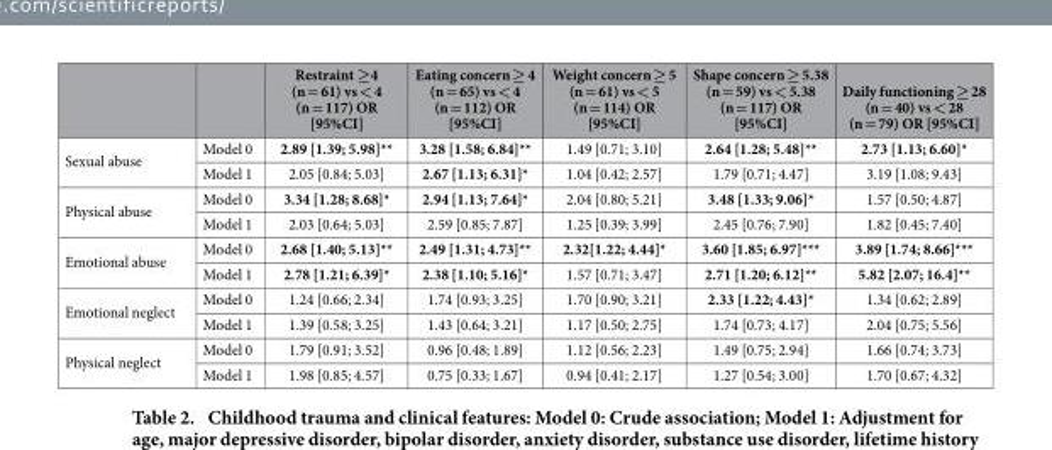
<table><thead><tr><td></td><td></td><td>Restraint ≥4 (n = 61) vs &lt; 4 (n = 117) OR [95%CI]</td><td>Eating concern ≥ 4 (n = 65) vs &lt; 4 (n = 112) OR [95%CI]</td><td>Weight concern ≥ 5 (n = 61) vs &lt; 5 (n = 114) OR [95%CI]</td><td>Shape concern ≥ 5.38 (n = 59) vs &lt; 5.38 (n = 117) OR [95%CI]</td><td>Daily functioning ≥ 28 (n = 40) vs &lt; 28 (n = 79) OR [95%CI]</td></tr></thead><tbody><tr><td rowspan="2">Sexual abuse</td><td>Model 0</td><td>2.89 [1.39; 5.98]**</td><td>3.28 [1.58; 6.84]**</td><td>1.49 [0.71; 3.10]</td><td>2.64 [1.28; 5.48]**</td><td>2.73 [1.13; 6.60]*</td></tr><tr><td>Model 1</td><td>2.05 [0.84; 5.03]</td><td>2.67 [1.13; 6.31]*</td><td>1.04 [0.42; 2.57]</td><td>1.79 [0.71; 4.47]</td><td>3.19 [1.08; 9.43]</td></tr><tr><td rowspan="2">Physical abuse</td><td>Model 0</td><td>3.34 [1.28; 8.68]*</td><td>2.94 [1.13; 7.64]*</td><td>2.04 [0.80; 5.21]</td><td>3.48 [1.33; 9.06]*</td><td>1.57 [0.50; 4.87]</td></tr><tr><td>Model 1</td><td>2.03 [0.64; 5.03]</td><td>2.59 [0.85; 7.87]</td><td>1.25 [0.39; 3.99]</td><td>2.45 [0.76; 7.90]</td><td>1.82 [0.45; 7.40]</td></tr><tr><td rowspan="2">Emotional abuse</td><td>Model 0</td><td>2.68 [1.40; 5.13]**</td><td>2.49 [1.31; 4.73]**</td><td>2.32[1.22; 4.44]*</td><td>3.60 [1.85; 6.97]***</td><td>3.89 [1.74; 8.66]***</td></tr><tr><td>Model 1</td><td>2.78 [1.21; 6.39]*</td><td>2.38 [1.10; 5.16]*</td><td>1.57 [0.71; 3.47]</td><td>2.71 [1.20; 6.12]**</td><td>5.82 [2.07; 16.4]**</td></tr><tr><td rowspan="2">Emotional neglect</td><td>Model 0</td><td>1.24 [0.66; 2.34]</td><td>1.74 [0.93; 3.25]</td><td>1.70 [0.90; 3.21]</td><td>2.33 [1.22; 4.43]*</td><td>1.34 [0.62; 2.89]</td></tr><tr><td>Model 1</td><td>1.39 [0.58; 3.25]</td><td>1.43 [0.64; 3.21]</td><td>1.17 [0.50; 2.75]</td><td>1.74 [0.73; 4.17]</td><td>2.04 [0.75; 5.56]</td></tr><tr><td rowspan="2">Physical neglect</td><td>Model 0</td><td>1.79 [0.91; 3.52]</td><td>0.96 [0.48; 1.89]</td><td>1.12 [0.56; 2.23]</td><td>1.49 [0.75; 2.94]</td><td>1.66 [0.74; 3.73]</td></tr><tr><td>Model 1</td><td>1.98 [0.85; 4.57]</td><td>0.75 [0.33; 1.67]</td><td>0.94 [0.41; 2.17]</td><td>1.27 [0.54; 3.00]</td><td>1.70 [0.67; 4.32]</td></tr></tbody></table>